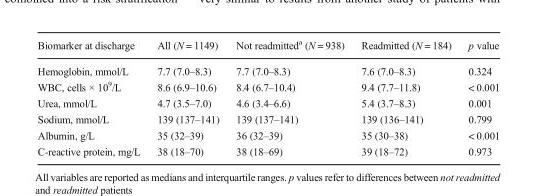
<table><thead><tr><td>Biomarker at discharge</td><td>All (N = 1149)</td><td>Not readmitted<sup>a</sup> (N = 938)</td><td>Readmitted (N = 184)</td><td>p value</td></tr></thead><tbody><tr><td>Hemoglobin, mmol/L</td><td>7.7 (7.0–8.3)</td><td>7.7 (7.0–8.3)</td><td>7.6 (7.0–8.3)</td><td>0.324</td></tr><tr><td>WBC, cells × 10<sup>9</sup>/L</td><td>8.6 (6.9–10.6)</td><td>8.4 (6.7–10.4)</td><td>9.4 (7.7–11.8)</td><td>&lt; 0.001</td></tr><tr><td>Urea, mmol/L</td><td>4.7 (3.5–7.0)</td><td>4.6 (3.4–6.6)</td><td>5.4 (3.7–8.3)</td><td>0.001</td></tr><tr><td>Sodium, mmol/L</td><td>139 (137–141)</td><td>139 (137–141)</td><td>139 (136–141)</td><td>0.799</td></tr><tr><td>Albumin, g/L</td><td>35 (32–39)</td><td>36 (32–39)</td><td>35 (30–38)</td><td>&lt; 0.001</td></tr><tr><td>C-reactive protein, mg/L</td><td>38 (18–70)</td><td>38 (18–69)</td><td>39 (18–72)</td><td>0.973</td></tr></tbody></table>